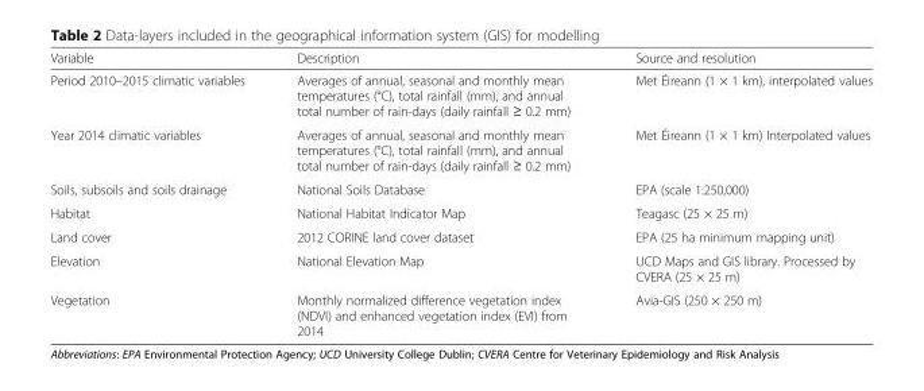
<table><thead><tr><td>Variable</td><td>Description</td><td>Source and resolution</td></tr></thead><tbody><tr><td>Period 2010–2015 climatic variables</td><td>Averages of annual, seasonal and monthly mean temperatures (°C), total rainfall (mm), and annual total number of rain-days (daily rainfall ≥ 0.2 mm)</td><td>Met Éireann (1 × 1 km), interpolated values</td></tr><tr><td>Year 2014 climatic variables</td><td>Averages of annual, seasonal and monthly mean temperatures (°C), total rainfall (mm), and annual total number of rain-days (daily rainfall ≥ 0.2 mm)</td><td>Met Éireann (1 × 1 km) Interpolated values</td></tr><tr><td>Soils, subsoils and soils drainage</td><td>National Soils Database</td><td>EPA (scale 1:250,000)</td></tr><tr><td>Habitat</td><td>National Habitat Indicator Map</td><td>Teagasc (25 × 25 m)</td></tr><tr><td>Land cover</td><td>2012 CORINE land cover dataset</td><td>EPA (25 ha minimum mapping unit)</td></tr><tr><td>Elevation</td><td>National Elevation Map</td><td>UCD Maps and GIS library. Processed by CVERA (25 × 25 m)</td></tr><tr><td>Vegetation</td><td>Monthly normalized difference vegetation index (NDVI) and enhanced vegetation index (EVI) from 2014</td><td>Avia-GIS (250 × 250 m)</td></tr></tbody></table>